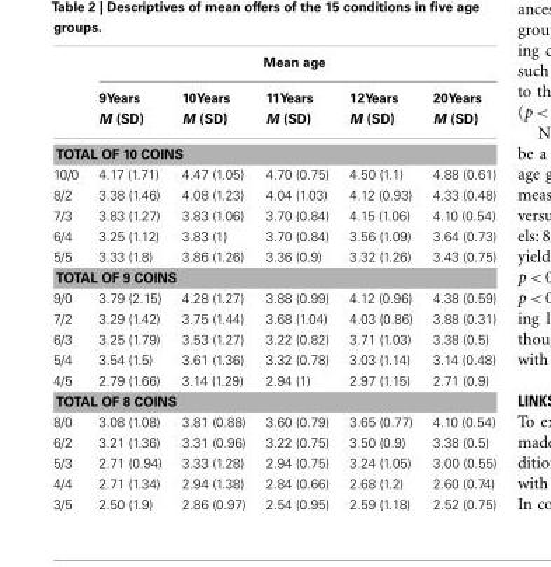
<table><thead><tr><td rowspan="3"></td><td colspan="5">Mean age</td></tr><tr><td rowspan="2">9Years M (SD)</td><td rowspan="2">10Years M (SD)</td><td rowspan="2">11Years M (SD)</td><td rowspan="2">12Years M (SD)</td><td rowspan="2">20Years M (SD)</td></tr><tr></tr></thead><tbody><tr><td colspan="6">TOTAL OF 10 COINS</td></tr><tr><td>10/0</td><td>4.17 (1.71)</td><td>4.47 (1.05)</td><td>4.70 (0.75)</td><td>4.50 (1.1)</td><td>4.88 (0.61)</td></tr><tr><td>8/2</td><td>3.38 (1.46)</td><td>4.08 (1.23)</td><td>4.04 (1.03)</td><td>4.12 (0.93)</td><td>4.33 (0.48)</td></tr><tr><td>7/3</td><td>3.83 (1.27)</td><td>3.83 (1.06)</td><td>3.70 (0.84)</td><td>4.15 (1.06)</td><td>4.10 (0.54)</td></tr><tr><td>6/4</td><td>3.25 (1.12)</td><td>3.83 (1)</td><td>3.70 (0.84)</td><td>3.56 (1.09)</td><td>3.64 (0.73)</td></tr><tr><td>5/5</td><td>3.33 (1.8)</td><td>3.86 (1.26)</td><td>3.36 (0.9)</td><td>3.32 (1.26)</td><td>3.43 (0.75)</td></tr><tr><td colspan="6">TOTAL OF 9 COINS</td></tr><tr><td>9/0</td><td>3.79 (2.15)</td><td>4.28 (1.27)</td><td>3.88 (0.99)</td><td>4.12 (0.96)</td><td>4.38 (0.59)</td></tr><tr><td>7/2</td><td>3.29 (1.42)</td><td>3.75 (1.44)</td><td>3.68 (1.04)</td><td>4.03 (0.86)</td><td>3.88 (0.31)</td></tr><tr><td>6/3</td><td>3.25 (1.79)</td><td>3.53 (1.27)</td><td>3.22 (0.82)</td><td>3.71 (1.03)</td><td>3.38 (0.5)</td></tr><tr><td>5/4</td><td>3.54 (1.5)</td><td>3.61 (1.36)</td><td>3.32 (0.78)</td><td>3.03 (1.14)</td><td>3.14 (0.48)</td></tr><tr><td>4/5</td><td>2.79 (1.66)</td><td>3.14 (1.29)</td><td>2.94 (1)</td><td>2.97 (1.15)</td><td>2.71 (0.9)</td></tr><tr><td colspan="6">TOTAL OF 8 COINS</td></tr><tr><td>8/0</td><td>3.08 (1.08)</td><td>3.81 (0.88)</td><td>3.60 (0.79)</td><td>3.65 (0.77)</td><td>4.10 (0.54)</td></tr><tr><td>6/2</td><td>3.21 (1.36)</td><td>3.31 (0.96)</td><td>3.22 (0.75)</td><td>3.50 (0.9)</td><td>3.38 (0.5)</td></tr><tr><td>5/3</td><td>2.71 (0.94)</td><td>3.33 (1.28)</td><td>2.94 (0.75)</td><td>3.24 (1.05)</td><td>3.00 (0.55)</td></tr><tr><td>4/4</td><td>2.71 (1.34)</td><td>2.94 (1.38)</td><td>2.84 (0.66)</td><td>2.68 (1.2)</td><td>2.60 (0.74)</td></tr><tr><td>3/5</td><td>2.50 (1.9)</td><td>2.86 (0.97)</td><td>2.54 (0.95)</td><td>2.59 (1.18)</td><td>2.52 (0.75)</td></tr></tbody></table>